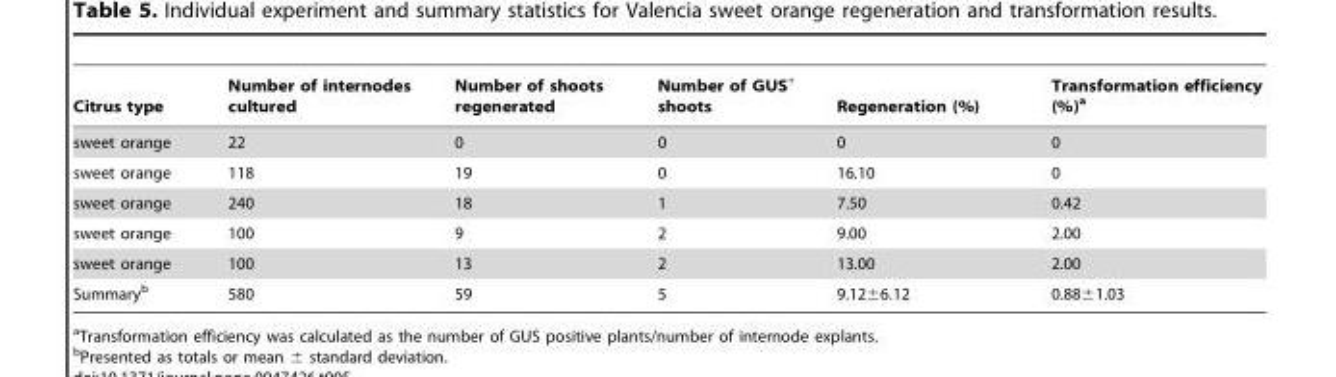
<table><thead><tr><td>Citrus type</td><td>Number of internodes cultured</td><td>Number of shoots regenerated</td><td>Number of GUS<sup>+</sup> shoots</td><td>Regeneration (%)</td><td>Transformation efficiency (%)<sup>a</sup></td></tr></thead><tbody><tr><td>sweet orange</td><td>22</td><td>0</td><td>0</td><td>0</td><td>0</td></tr><tr><td>sweet orange</td><td>118</td><td>19</td><td>0</td><td>16.10</td><td>0</td></tr><tr><td>sweet orange</td><td>240</td><td>18</td><td>1</td><td>7.50</td><td>0.42</td></tr><tr><td>sweet orange</td><td>100</td><td>9</td><td>2</td><td>9.00</td><td>2.00</td></tr><tr><td>sweet orange</td><td>100</td><td>13</td><td>2</td><td>13.00</td><td>2.00</td></tr><tr><td>Summary<sup>b</sup></td><td>580</td><td>59</td><td>5</td><td>9.12±6.12</td><td>0.88±1.03</td></tr></tbody></table>